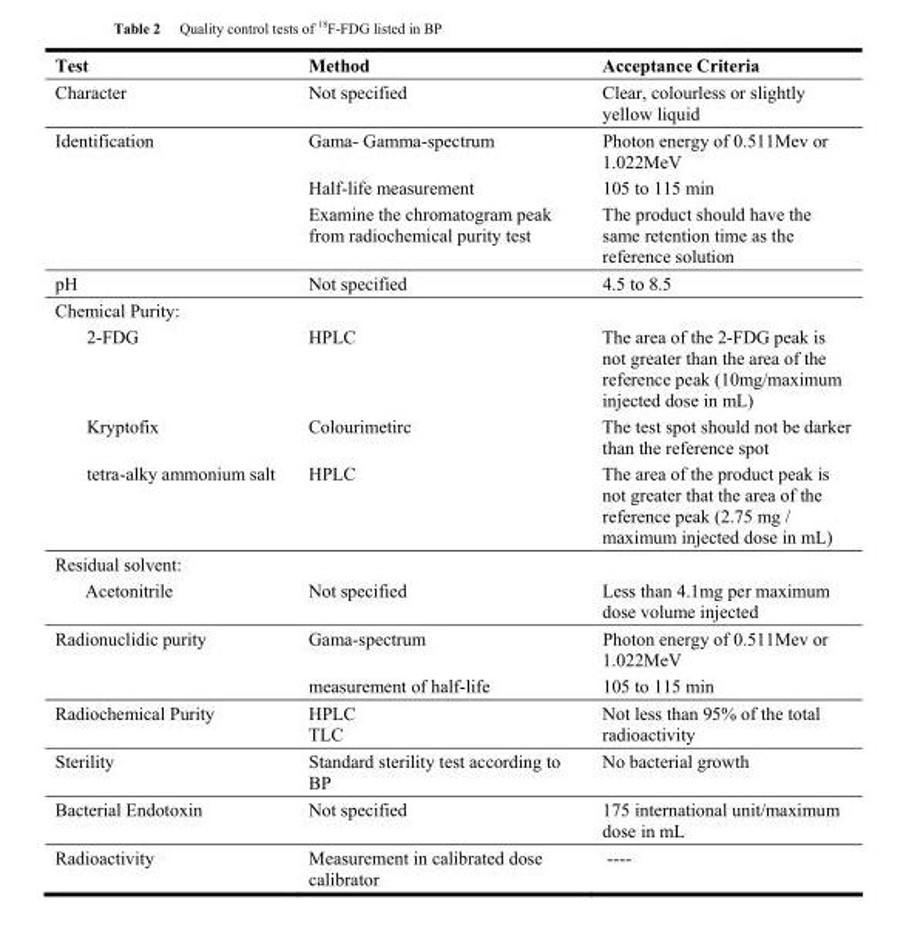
<table><thead><tr><td>Test</td><td>Method</td><td>Acceptance Criteria</td></tr></thead><tbody><tr><td>Character</td><td>Not specified</td><td>Clear, colourless or slightly yellow liquid</td></tr><tr><td rowspan="3">Identification</td><td>Gama- Gamma-spectrum</td><td>Photon energy of 0.511Mev or 1.022MeV</td></tr><tr><td>Half-life measurement</td><td>105 to 115 min</td></tr><tr><td>Examine the chromatogram peak from radiochemical purity test</td><td>The product should have the same retention time as the reference solution</td></tr><tr><td>pH</td><td>Not specified</td><td>4.5 to 8.5</td></tr><tr><td colspan="3">Chemical Purity:</td></tr><tr><td>2-FDG</td><td>HPLC</td><td>The area of the 2-FDG peak is not greater than the area of the reference peak (10mg/maximum injected dose in mL)</td></tr><tr><td>Kryptofix</td><td>Colourimetirc</td><td>The test spot should not be darker than the reference spot</td></tr><tr><td>tetra-alky ammonium salt</td><td>HPLC</td><td>The area of the product peak is not greater that the area of the reference peak (2.75 mg / maximum injected dose in mL)</td></tr><tr><td colspan="3">Residual solvent:</td></tr><tr><td>Acetonitrile</td><td>Not specified</td><td>Less than 4.1mg per maximum dose volume injected</td></tr><tr><td rowspan="2">Radionuclidic purity</td><td>Gama-spectrum</td><td>Photon energy of 0.511Mev or 1.022MeV</td></tr><tr><td>measurement of half-life</td><td>105 to 115 min</td></tr><tr><td>Radiochemical Purity</td><td>HPLC TLC</td><td>Not less than 95% of the total radioactivity</td></tr><tr><td>Sterility</td><td>Standard sterility test according to BP</td><td>No bacterial growth</td></tr><tr><td>Bacterial Endotoxin</td><td>Not specified</td><td>175 international unit/maximum dose in mL</td></tr><tr><td>Radioactivity</td><td>Measurement in calibrated dose calibrator</td><td>----</td></tr></tbody></table>